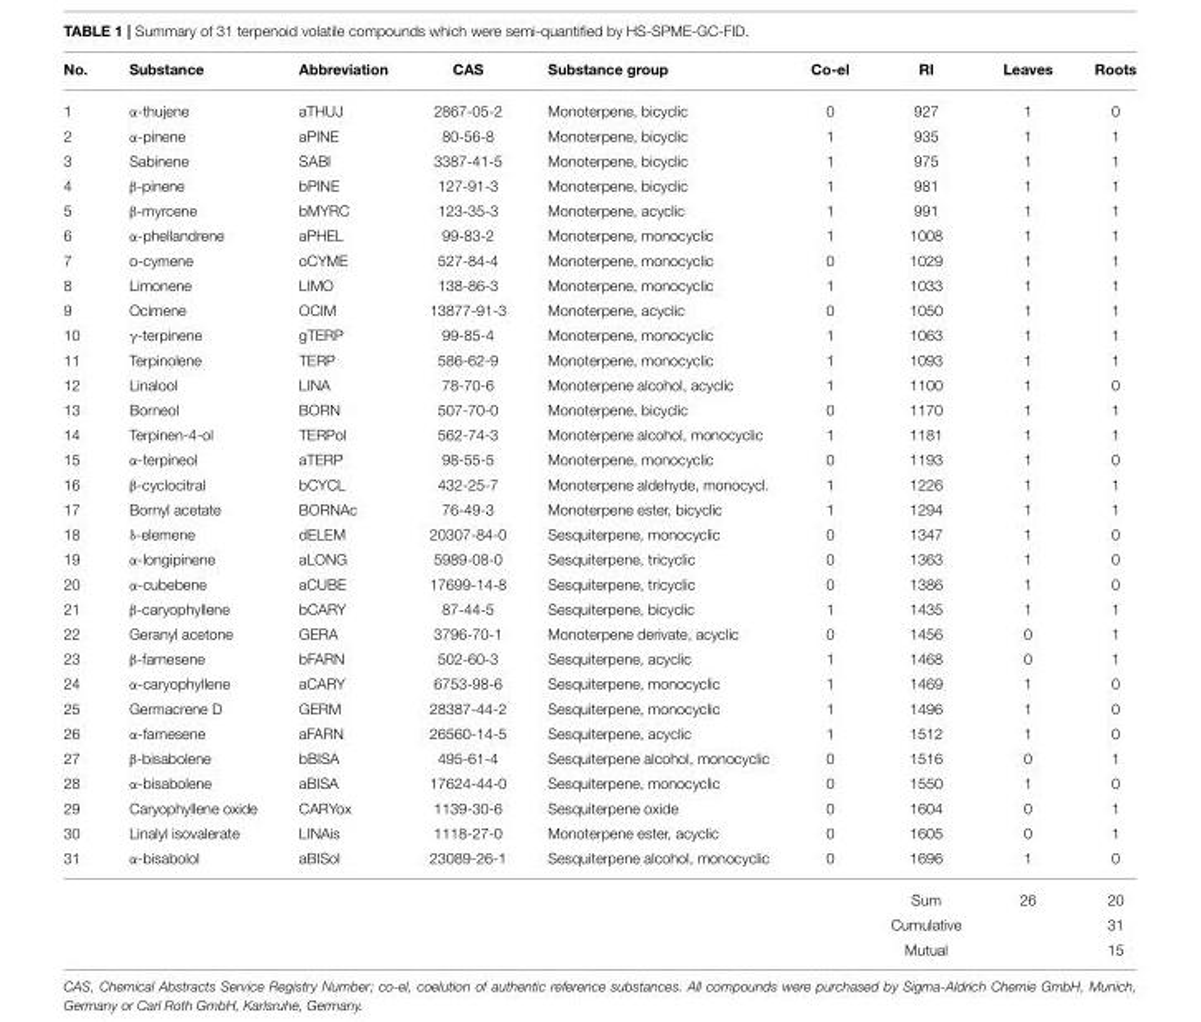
<table><thead><tr><td>No.</td><td>Substance</td><td>Abbreviation</td><td>CAS</td><td>Substance group</td><td>Co-el</td><td>RI</td><td>Leaves</td><td>Roots</td></tr></thead><tbody><tr><td>1</td><td>α-thujene</td><td>aTHUJ</td><td>2867-05-2</td><td>Monoterpene, bicyclic</td><td>0</td><td>927</td><td>1</td><td>0</td></tr><tr><td>2</td><td>α-pinene</td><td>aPINE</td><td>80-56-8</td><td>Monoterpene, bicyclic</td><td>1</td><td>935</td><td>1</td><td>1</td></tr><tr><td>3</td><td>Sabinene</td><td>SABI</td><td>3387-41-5</td><td>Monoterpene, bicyclic</td><td>1</td><td>975</td><td>1</td><td>1</td></tr><tr><td>4</td><td>β-pinene</td><td>bPINE</td><td>127-91-3</td><td>Monoterpene, bicyclic</td><td>1</td><td>981</td><td>1</td><td>1</td></tr><tr><td>5</td><td>β-myrcene</td><td>bMYRC</td><td>123-35-3</td><td>Monoterpene, acyclic</td><td>1</td><td>991</td><td>1</td><td>1</td></tr><tr><td>6</td><td>α-phellandrene</td><td>aPHEL</td><td>99-83-2</td><td>Monoterpene, monocyclic</td><td>1</td><td>1008</td><td>1</td><td>1</td></tr><tr><td>7</td><td>o-cymene</td><td>oCYME</td><td>527-84-4</td><td>Monoterpene, monocyclic</td><td>0</td><td>1029</td><td>1</td><td>1</td></tr><tr><td>8</td><td>Limonene</td><td>LIMO</td><td>138-86-3</td><td>Monoterpene, monocyclic</td><td>1</td><td>1033</td><td>1</td><td>1</td></tr><tr><td>9</td><td>Ocimene</td><td>OCIM</td><td>13877-91-3</td><td>Monoterpene, acyclic</td><td>0</td><td>1050</td><td>1</td><td>1</td></tr><tr><td>10</td><td>γ-terpinene</td><td>gTERP</td><td>99-85-4</td><td>Monoterpene, monocyclic</td><td>1</td><td>1063</td><td>1</td><td>1</td></tr><tr><td>11</td><td>Terpinolene</td><td>TERP</td><td>586-62-9</td><td>Monoterpene, monocyclic</td><td>1</td><td>1093</td><td>1</td><td>1</td></tr><tr><td>12</td><td>Linalool</td><td>LINA</td><td>78-70-6</td><td>Monoterpene alcohol, acyclic</td><td>1</td><td>1100</td><td>1</td><td>0</td></tr><tr><td>13</td><td>Borneol</td><td>BORN</td><td>507-70-0</td><td>Monoterpene, bicyclic</td><td>0</td><td>1170</td><td>1</td><td>1</td></tr><tr><td>14</td><td>Terpinen-4-ol</td><td>TERPol</td><td>562-74-3</td><td>Monoterpene alcohol, monocyclic</td><td>1</td><td>1181</td><td>1</td><td>1</td></tr><tr><td>15</td><td>α-terpineol</td><td>aTERP</td><td>98-55-5</td><td>Monoterpene, monocyclic</td><td>0</td><td>1193</td><td>1</td><td>0</td></tr><tr><td>16</td><td>β-cyclocitral</td><td>bCYCL</td><td>432-25-7</td><td>Monoterpene aldehyde, monocycl.</td><td>1</td><td>1226</td><td>1</td><td>1</td></tr><tr><td>17</td><td>Bornyl acetate</td><td>BORNAc</td><td>76-49-3</td><td>Monoterpene ester, bicyclic</td><td>1</td><td>1294</td><td>1</td><td>1</td></tr><tr><td>18</td><td>δ-elemene</td><td>dELEM</td><td>20307-84-0</td><td>Sesquiterpene, monocyclic</td><td>0</td><td>1347</td><td>1</td><td>0</td></tr><tr><td>19</td><td>α-longipinene</td><td>aLONG</td><td>5989-08-0</td><td>Sesquiterpene, tricyclic</td><td>0</td><td>1363</td><td>1</td><td>0</td></tr><tr><td>20</td><td>α-cubebene</td><td>aCUBE</td><td>17699-14-8</td><td>Sesquiterpene, tricyclic</td><td>0</td><td>1386</td><td>1</td><td>0</td></tr><tr><td>21</td><td>β-caryophyllene</td><td>bCARY</td><td>87-44-5</td><td>Sesquiterpene, bicyclic</td><td>1</td><td>1435</td><td>1</td><td>1</td></tr><tr><td>22</td><td>Geranyl acetone</td><td>GERA</td><td>3796-70-1</td><td>Monoterpene derivate, acyclic</td><td>0</td><td>1456</td><td>0</td><td>1</td></tr><tr><td>23</td><td>β-farnesene</td><td>bFARN</td><td>502-60-3</td><td>Sesquiterpene, acyclic</td><td>1</td><td>1468</td><td>0</td><td>1</td></tr><tr><td>24</td><td>α-caryophyllene</td><td>aCARY</td><td>6753-98-6</td><td>Sesquiterpene, monocyclic</td><td>1</td><td>1469</td><td>1</td><td>0</td></tr><tr><td>25</td><td>Germacrene D</td><td>GERM</td><td>28387-44-2</td><td>Sesquiterpene, monocyclic</td><td>1</td><td>1496</td><td>1</td><td>0</td></tr><tr><td>26</td><td>α-farnesene</td><td>aFARN</td><td>26560-14-5</td><td>Sesquiterpene, acyclic</td><td>1</td><td>1512</td><td>1</td><td>0</td></tr><tr><td>27</td><td>β-bisabolene</td><td>bBISA</td><td>495-61-4</td><td>Sesquiterpene alcohol, monocyclic</td><td>0</td><td>1516</td><td>0</td><td>1</td></tr><tr><td>28</td><td>α-bisabolene</td><td>aBISA</td><td>17624-44-0</td><td>Sesquiterpene, monocyclic</td><td>0</td><td>1550</td><td>1</td><td>0</td></tr><tr><td>29</td><td>Caryophyllene oxide</td><td>CARYox</td><td>1139-30-6</td><td>Sesquiterpene oxide</td><td>0</td><td>1604</td><td>0</td><td>1</td></tr><tr><td>30</td><td>Linalyl isovalerate</td><td>LINAis</td><td>1118-27-0</td><td>Monoterpene ester, acyclic</td><td>0</td><td>1605</td><td>0</td><td>1</td></tr><tr><td rowspan="4">31</td><td>α-bisabolol</td><td>aBISol</td><td>23089-26-1</td><td>Sesquiterpene alcohol, monocyclic</td><td>0</td><td>1696</td><td>1</td><td>0</td></tr><tr><td></td><td></td><td></td><td></td><td></td><td>Sum</td><td>26</td><td>20</td></tr><tr><td></td><td></td><td></td><td></td><td></td><td>Cumulative</td><td></td><td>31</td></tr><tr><td></td><td></td><td></td><td></td><td></td><td>Mutual</td><td></td><td>15</td></tr></tbody></table>